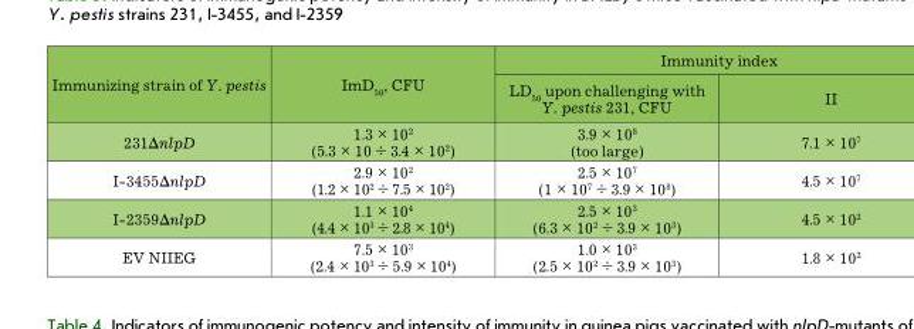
<table><thead><tr><td rowspan="2">Immunizing strain of Y. pestis</td><td rowspan="2">ImD<sub>50</sub>, CFU</td><td colspan="2">Immunity index</td></tr><tr><td>LD<sub>50</sub> upon challenging with Y. pestis 231, CFU</td><td>II</td></tr></thead><tbody><tr><td>231∆nlpD</td><td>1.3 × 10<sup>2</sup> (5.3 × 10 ÷ 3.4 × 10<sup>2</sup>)</td><td>3.9 × 10<sup>8</sup> (too large)</td><td>7.1 × 10<sup>7</sup></td></tr><tr><td>I-3455∆nlpD</td><td>2.9 × 10<sup>2</sup> (1.2 × 10<sup>2</sup> ÷ 7.5 × 10<sup>2</sup>)</td><td>2.5 × 10<sup>7</sup> (1 × 10<sup>7</sup> ÷ 3.9 × 10<sup>8</sup>)</td><td>4.5 × 10<sup>7</sup></td></tr><tr><td>I-2359∆nlpD</td><td>1.1 × 10<sup>4</sup> (4.4 × 10<sup>3</sup> ÷ 2.8 × 10<sup>4</sup>)</td><td>2.5 × 10<sup>3</sup> (6.3 × 10<sup>2</sup> ÷ 3.9 × 10<sup>3</sup>)</td><td>4.5 × 10<sup>2</sup></td></tr><tr><td>EV NIIEG</td><td>7.5 × 10<sup>3</sup> (2.4 × 10<sup>3</sup> ÷ 5.9 × 10<sup>4</sup>)</td><td>1.0 × 10<sup>3</sup> (2.5 × 10<sup>2</sup> ÷ 3.9 × 10<sup>3</sup>)</td><td>1.8 × 10<sup>2</sup></td></tr></tbody></table>